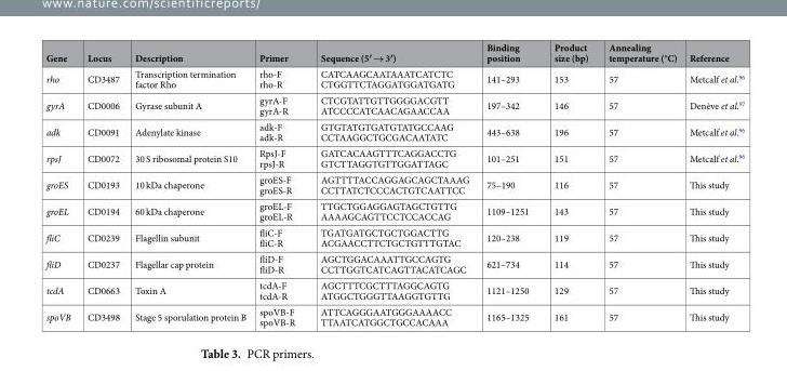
<table><thead><tr><td>Gene</td><td>Locus</td><td>Description</td><td>Primer</td><td>Sequence (5′ → 3′)</td><td>Binding position</td><td>Product size (bp)</td><td>Annealing temperature (°C)</td><td>Reference</td></tr></thead><tbody><tr><td>rho</td><td>CD3487</td><td>Transcription termination factor Rho</td><td>rho-F rho-R</td><td>CATCAAGCAATAAATCATCTC CTGGTTCTAGGATGGATGATG</td><td>141–293</td><td>153</td><td>57</td><td>Metcalf et al.<sup>96</sup></td></tr><tr><td>gyrA</td><td>CD0006</td><td>Gyrase subunit A</td><td>gyrA-F gyrA-R</td><td>CTCGTATTGTTGGGGACGTT ATCCCCATCAACAGAACCAA</td><td>197–342</td><td>146</td><td>57</td><td>Denève et al.<sup>97</sup></td></tr><tr><td>adk</td><td>CD0091</td><td>Adenylate kinase</td><td>adk-F adk-R</td><td>GTGTATGTGATGTATGCCAAG CCTAAGGCTGCGACAATATC</td><td>443–638</td><td>196</td><td>57</td><td>Metcalf et al.<sup>96</sup></td></tr><tr><td>rpsJ</td><td>CD0072</td><td>30 S ribosomal protein S10</td><td>RpsJ-F rpsJ-R</td><td>GATCACAAGTTTCAGGACCTG GTCTTAGGTGTTGGATTAGC</td><td>101–251</td><td>151</td><td>57</td><td>Metcalf et al.<sup>96</sup></td></tr><tr><td>groES</td><td>CD0193</td><td>10 kDa chaperone</td><td>groES-F groES-R</td><td>AGTTTTACCAGGAGCAGCTAAAG CCTTATCTCCCACTGTCAATTCC</td><td>75–190</td><td>116</td><td>57</td><td>This study</td></tr><tr><td>groEL</td><td>CD0194</td><td>60 kDa chaperone</td><td>groEL-F groEL-R</td><td>TTGCTGGAGGAGTAGCTGTTG AAAAGCAGTTCCTCCACCAG</td><td>1109–1251</td><td>143</td><td>57</td><td>This study</td></tr><tr><td>fliC</td><td>CD0239</td><td>Flagellin subunit</td><td>fliC-F fliC-R</td><td>TGATGATGCTGCTGGACTTG ACGAACCTTCTGCTGTTTGTAC</td><td>120–238</td><td>119</td><td>57</td><td>This study</td></tr><tr><td>fliD</td><td>CD0237</td><td>Flagellar cap protein</td><td>fliD-F fliD-R</td><td>AGCTGGACAAATTGCCAGTG CCTTGGTCATCAGTTACATCAGC</td><td>621–734</td><td>114</td><td>57</td><td>This study</td></tr><tr><td>tcdA</td><td>CD0663</td><td>Toxin A</td><td>tcdA-F tcdA-R</td><td>AGCTTTCGCTTTAGGCAGTG ATGGCTGGGTTAAGGTGTTG</td><td>1121–1250</td><td>129</td><td>57</td><td>This study</td></tr><tr><td>spoVB</td><td>CD3498</td><td>Stage 5 sporulation protein B</td><td>spoVB-F spoVB-R</td><td>ATTCAGGGAATGGGAAAACC TTAATCATGGCTGCCACAAA</td><td>1165–1325</td><td>161</td><td>57</td><td>This study</td></tr></tbody></table>